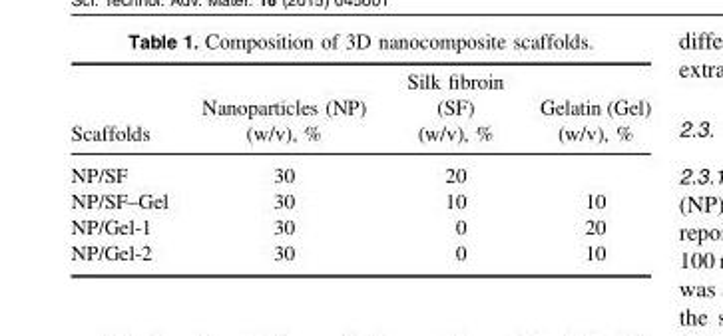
<table><thead><tr><td>Scaffolds</td><td>Nanoparticles (NP) (w/v), %</td><td>Silk fibroin (SF) (w/v), %</td><td>Gelatin (Gel) (w/v), %</td></tr></thead><tbody><tr><td>NP/SF</td><td>30</td><td>20</td><td></td></tr><tr><td>NP/SF–Gel</td><td>30</td><td>10</td><td>10</td></tr><tr><td>NP/Gel-1</td><td>30</td><td>0</td><td>20</td></tr><tr><td>NP/Gel-2</td><td>30</td><td>0</td><td>10</td></tr></tbody></table>